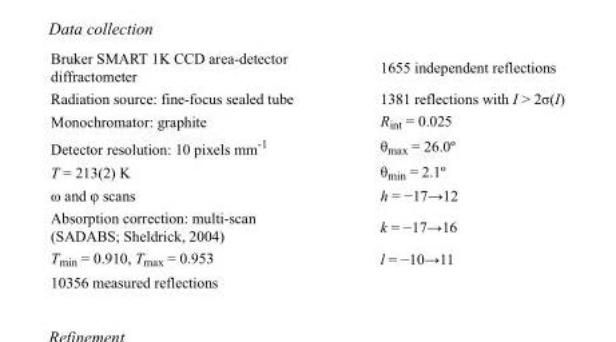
<table><tbody><tr><td>Bruker SMART 1K CCD area-detector diffractometer</td><td>1655 independent reflections</td></tr><tr><td>Radiation source: fine-focus sealed tube</td><td>1381 reflections with I &gt; 2σ(I)</td></tr><tr><td>Monochromator: graphite</td><td>R<sub>int</sub> = 0.025</td></tr><tr><td>Detector resolution: 10 pixels mm<sup>-1</sup></td><td>θ<sub>max</sub> = 26.0º</td></tr><tr><td>T = 213(2) K</td><td>θ<sub>min</sub> = 2.1º</td></tr><tr><td>ω and φ scans</td><td>h = −17→12</td></tr><tr><td>Absorption correction: multi-scan (SADABS; Sheldrick, 2004)</td><td>k = −17→16</td></tr><tr><td>T<sub>min</sub> = 0.910, T<sub>max</sub> = 0.953</td><td>l = −10→11</td></tr><tr><td>10356 measured reflections</td><td></td></tr></tbody></table>